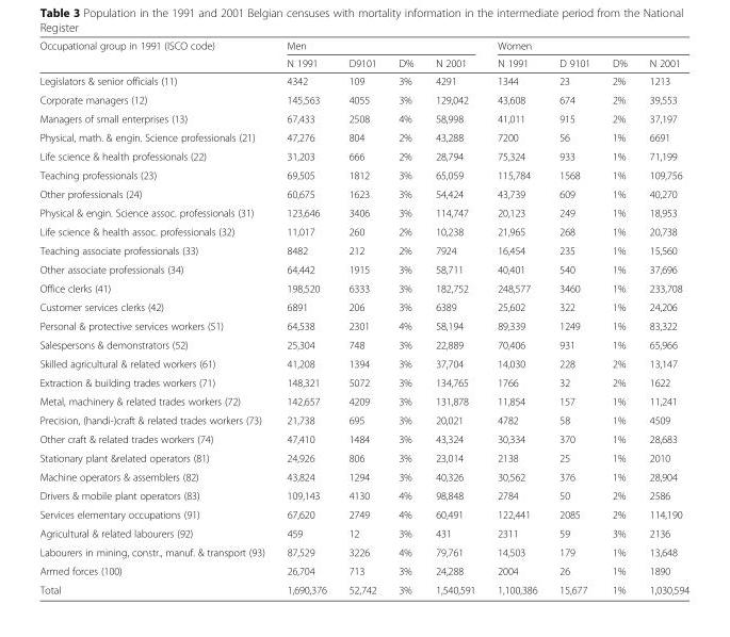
<table><thead><tr><td rowspan="2">Occupational group in 1991 (ISCO code)</td><td colspan="4">Men</td><td colspan="4">Women</td></tr><tr><td>N 1991</td><td>D9101</td><td>D%</td><td>N 2001</td><td>N 1991</td><td>D 9101</td><td>D%</td><td>N 2001</td></tr></thead><tbody><tr><td>Legislators &amp; senior officials (11)</td><td>4342</td><td>109</td><td>3%</td><td>4291</td><td>1344</td><td>23</td><td>2%</td><td>1213</td></tr><tr><td>Corporate managers (12)</td><td>145,563</td><td>4055</td><td>3%</td><td>129,042</td><td>43,608</td><td>674</td><td>2%</td><td>39,553</td></tr><tr><td>Managers of small enterprises (13)</td><td>67,433</td><td>2508</td><td>4%</td><td>58,998</td><td>41,011</td><td>915</td><td>2%</td><td>37,197</td></tr><tr><td>Physical, math. &amp; engin. Science professionals (21)</td><td>47,276</td><td>804</td><td>2%</td><td>43,288</td><td>7200</td><td>56</td><td>1%</td><td>6691</td></tr><tr><td>Life science &amp; health professionals (22)</td><td>31,203</td><td>666</td><td>2%</td><td>28,794</td><td>75,324</td><td>933</td><td>1%</td><td>71,199</td></tr><tr><td>Teaching professionals (23)</td><td>69,505</td><td>1812</td><td>3%</td><td>65,059</td><td>115,784</td><td>1568</td><td>1%</td><td>109,756</td></tr><tr><td>Other professionals (24)</td><td>60,675</td><td>1623</td><td>3%</td><td>54,424</td><td>43,739</td><td>609</td><td>1%</td><td>40,270</td></tr><tr><td>Physical &amp; engin. Science assoc. professionals (31)</td><td>123,646</td><td>3406</td><td>3%</td><td>114,747</td><td>20,123</td><td>249</td><td>1%</td><td>18,953</td></tr><tr><td>Life science &amp; health assoc. professionals (32)</td><td>11,017</td><td>260</td><td>2%</td><td>10,238</td><td>21,965</td><td>268</td><td>1%</td><td>20,738</td></tr><tr><td>Teaching associate professionals (33)</td><td>8482</td><td>212</td><td>2%</td><td>7924</td><td>16,454</td><td>235</td><td>1%</td><td>15,560</td></tr><tr><td>Other associate professionals (34)</td><td>64,442</td><td>1915</td><td>3%</td><td>58,711</td><td>40,401</td><td>540</td><td>1%</td><td>37,696</td></tr><tr><td>Office clerks (41)</td><td>198,520</td><td>6333</td><td>3%</td><td>182,752</td><td>248,577</td><td>3460</td><td>1%</td><td>233,708</td></tr><tr><td>Customer services clerks (42)</td><td>6891</td><td>206</td><td>3%</td><td>6389</td><td>25,602</td><td>322</td><td>1%</td><td>24,206</td></tr><tr><td>Personal &amp; protective services workers (51)</td><td>64,538</td><td>2301</td><td>4%</td><td>58,194</td><td>89,339</td><td>1249</td><td>1%</td><td>83,322</td></tr><tr><td>Salespersons &amp; demonstrators (52)</td><td>25,304</td><td>748</td><td>3%</td><td>22,889</td><td>70,406</td><td>931</td><td>1%</td><td>65,966</td></tr><tr><td>Skilled agricultural &amp; related workers (61)</td><td>41,208</td><td>1394</td><td>3%</td><td>37,704</td><td>14,030</td><td>228</td><td>2%</td><td>13,147</td></tr><tr><td>Extraction &amp; building trades workers (71)</td><td>148,321</td><td>5072</td><td>3%</td><td>134,765</td><td>1766</td><td>32</td><td>2%</td><td>1622</td></tr><tr><td>Metal, machinery &amp; related trades workers (72)</td><td>142,657</td><td>4209</td><td>3%</td><td>131,878</td><td>11,854</td><td>157</td><td>1%</td><td>11,241</td></tr><tr><td>Precision, (handi-)craft &amp; related trades workers (73)</td><td>21,738</td><td>695</td><td>3%</td><td>20,021</td><td>4782</td><td>58</td><td>1%</td><td>4509</td></tr><tr><td>Other craft &amp; related trades workers (74)</td><td>47,410</td><td>1484</td><td>3%</td><td>43,324</td><td>30,334</td><td>370</td><td>1%</td><td>28,683</td></tr><tr><td>Stationary plant &amp;related operators (81)</td><td>24,926</td><td>806</td><td>3%</td><td>23,014</td><td>2138</td><td>25</td><td>1%</td><td>2010</td></tr><tr><td>Machine operators &amp; assemblers (82)</td><td>43,824</td><td>1294</td><td>3%</td><td>40,326</td><td>30,562</td><td>376</td><td>1%</td><td>28,904</td></tr><tr><td>Drivers &amp; mobile plant operators (83)</td><td>109,143</td><td>4130</td><td>4%</td><td>98,848</td><td>2784</td><td>50</td><td>2%</td><td>2586</td></tr><tr><td>Services elementary occupations (91)</td><td>67,620</td><td>2749</td><td>4%</td><td>60,491</td><td>122,441</td><td>2085</td><td>2%</td><td>114,190</td></tr><tr><td>Agricultural &amp; related labourers (92)</td><td>459</td><td>12</td><td>3%</td><td>431</td><td>2311</td><td>59</td><td>3%</td><td>2136</td></tr><tr><td>Labourers in mining, constr., manuf. &amp; transport (93)</td><td>87,529</td><td>3226</td><td>4%</td><td>79,761</td><td>14,503</td><td>179</td><td>1%</td><td>13,648</td></tr><tr><td>Armed forces (100)</td><td>26,704</td><td>713</td><td>3%</td><td>24,288</td><td>2004</td><td>26</td><td>1%</td><td>1890</td></tr><tr><td>Total</td><td>1,690,376</td><td>52,742</td><td>3%</td><td>1,540,591</td><td>1,100,386</td><td>15,677</td><td>1%</td><td>1,030,594</td></tr></tbody></table>